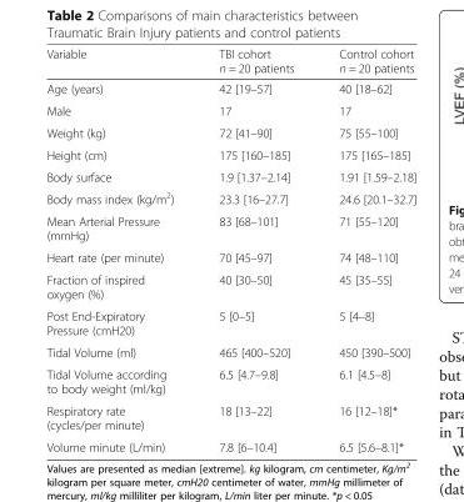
<table><thead><tr><td>Variable</td><td>TBI cohort n = 20 patients</td><td>Control cohort n = 20 patients</td></tr></thead><tbody><tr><td>Age (years)</td><td>42 [19–57]</td><td>40 [18–62]</td></tr><tr><td>Male</td><td>17</td><td>17</td></tr><tr><td>Weight (kg)</td><td>72 [41–90]</td><td>75 [55–100]</td></tr><tr><td>Height (cm)</td><td>175 [160–185]</td><td>175 [165–185]</td></tr><tr><td>Body surface</td><td>1.9 [1.37–2.14]</td><td>1.91 [1.59–2.18]</td></tr><tr><td>Body mass index (kg/m<sup>2</sup>)</td><td>23.3 [16–27.7]</td><td>24.6 [20.1–32.7]</td></tr><tr><td>Mean Arterial Pressure (mmHg)</td><td>83 [68–101]</td><td>71 [55–120]</td></tr><tr><td>Heart rate (per minute)</td><td>70 [45–97]</td><td>74 [48–110]</td></tr><tr><td>Fraction of inspired oxygen (%)</td><td>40 [30–50]</td><td>45 [35–55]</td></tr><tr><td>Post End-Expiratory Pressure (cmH20)</td><td>5 [0–5]</td><td>5 [4–8]</td></tr><tr><td>Tidal Volume (ml)</td><td>465 [400–520]</td><td>450 [390–500]</td></tr><tr><td>Tidal Volume according to body weight (ml/kg)</td><td>6.5 [4.7–9.8]</td><td>6.1 [4.5–8]</td></tr><tr><td>Respiratory rate (cycles/per minute)</td><td>18 [13–22]</td><td>16 [12–18]*</td></tr><tr><td>Volume minute (L/min)</td><td>7.8 [6–10.4]</td><td>6.5 [5.6–8.1]*</td></tr></tbody></table>